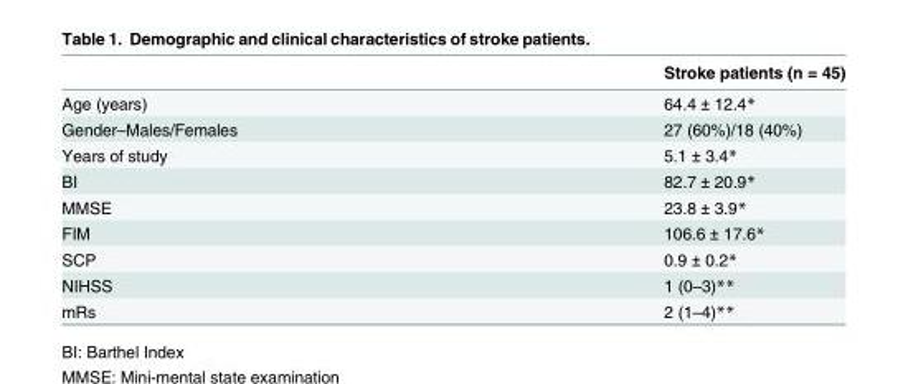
<table><thead><tr><td></td><td>Stroke patients (n = 45)</td></tr></thead><tbody><tr><td>Age (years)</td><td>64.4 ± 12.4*</td></tr><tr><td>Gender–Males/Females</td><td>27 (60%)/18 (40%)</td></tr><tr><td>Years of study</td><td>5.1 ± 3.4*</td></tr><tr><td>BI</td><td>82.7 ± 20.9*</td></tr><tr><td>MMSE</td><td>23.8 ± 3.9*</td></tr><tr><td>FIM</td><td>106.6 ± 17.6*</td></tr><tr><td>SCP</td><td>0.9 ± 0.2*</td></tr><tr><td>NIHSS</td><td>1 (0–3)**</td></tr><tr><td>mRs</td><td>2 (1–4)**</td></tr></tbody></table>